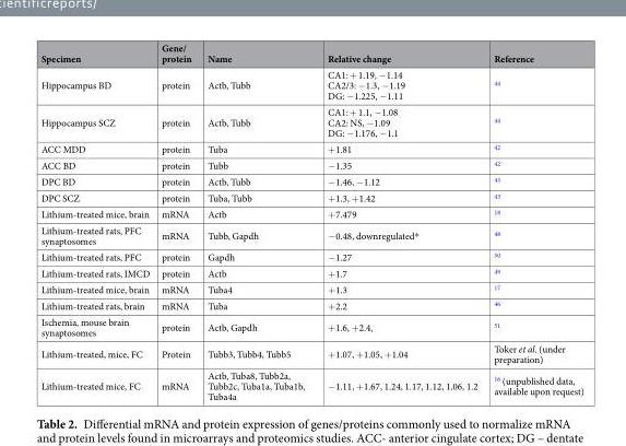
<table><thead><tr><td>Specimen</td><td>Gene/ protein</td><td>Name</td><td>Relative change</td><td>Reference</td></tr></thead><tbody><tr><td>Hippocampus BD</td><td>protein</td><td>Actb, Tubb</td><td>CA1: + 1.19, −1.14 CA2/3: −1.3, −1.19 DG: −1.225, −1.11</td><td><sup>44</sup></td></tr><tr><td>Hippocampus SCZ</td><td>protein</td><td>Actb, Tubb</td><td>CA1: + 1.1, −1.08 CA2: NS, −1.09 DG: −1.176, −1.1</td><td><sup>44</sup></td></tr><tr><td>ACC MDD</td><td>protein</td><td>Tuba</td><td>+1.81</td><td><sup>42</sup></td></tr><tr><td>ACC BD</td><td>protein</td><td>Tubb</td><td>−1.35</td><td><sup>42</sup></td></tr><tr><td>DPC BD</td><td>protein</td><td>Actb, Tubb</td><td>−1.46, −1.12</td><td><sup>43</sup></td></tr><tr><td>DPC SCZ</td><td>protein</td><td>Tuba, Tubb</td><td>+1.3, +1.42</td><td><sup>43</sup></td></tr><tr><td>Lithium-treated mice, brain</td><td>mRNA</td><td>Actb</td><td>+7.479</td><td><sup>18</sup></td></tr><tr><td>Lithium-treated rats, PFC synaptosomes</td><td>mRNA</td><td>Tubb, Gapdh</td><td>−0.48, downregulated*</td><td><sup>48</sup></td></tr><tr><td>Lithium-treated rats, PFC</td><td>protein</td><td>Gapdh</td><td>−1.27</td><td><sup>50</sup></td></tr><tr><td>Lithium-treated rats, IMCD</td><td>protein</td><td>Actb</td><td>+1.7</td><td><sup>49</sup></td></tr><tr><td>Lithium-treated mice, brain</td><td>mRNA</td><td>Tuba4</td><td>+1.3</td><td><sup>17</sup></td></tr><tr><td>Lithium-treated rats, brain</td><td>mRNA</td><td>Tuba</td><td>+2.2</td><td><sup>46</sup></td></tr><tr><td>Ischemia, mouse brain synaptosomes</td><td>protein</td><td>Actb, Gapdh</td><td>+1.6, +2.4,</td><td><sup>51</sup></td></tr><tr><td>Lithium-treated, mice, FC</td><td>Protein</td><td>Tubb3, Tubb4, Tubb5</td><td>+1.07, +1.05, +1.04</td><td>Toker et al. (under preparation)</td></tr><tr><td>Lithium-treated mice, FC</td><td>mRNA</td><td>Actb, Tuba8, Tubb2a, Tubb2c, Tuba1a, Tuba1b, Tuba4a</td><td>−1.11, +1.67, 1.24, 1.17, 1.12, 1.06, 1.2</td><td><sup>16</sup> (unpublished data, available upon request)</td></tr></tbody></table>